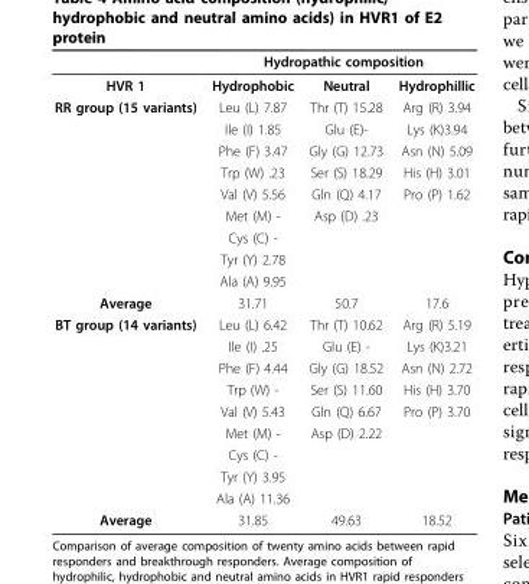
<table><thead><tr><td rowspan="2">HVR 1</td><td colspan="3">Hydropathic composition</td></tr><tr><td>Hydrophobic</td><td>Neutral</td><td>Hydrophillic</td></tr></thead><tbody><tr><td rowspan="9">RR group (15 variants)</td><td>Leu (L) 7.87</td><td>Thr (T) 15.28</td><td>Arg (R) 3.94</td></tr><tr><td>Ile (I) 1.85</td><td>Glu (E)-</td><td>Lys (K)3.94</td></tr><tr><td>Phe (F) 3.47</td><td>Gly (G) 12.73</td><td>Asn (N) 5.09</td></tr><tr><td>Trp (W) .23</td><td>Ser (S) 18.29</td><td>His (H) 3.01</td></tr><tr><td>Val (V) 5.56</td><td>Gln (Q) 4.17</td><td>Pro (P) 1.62</td></tr><tr><td>Met (M) -</td><td>Asp (D) .23</td><td></td></tr><tr><td>Cys (C) -</td><td></td><td></td></tr><tr><td>Tyr (Y) 2.78</td><td></td><td></td></tr><tr><td>Ala (A) 9.95</td><td></td><td></td></tr><tr><td>Average</td><td>31.71</td><td>50.7</td><td>17.6</td></tr><tr><td rowspan="9">BT group (14 variants)</td><td>Leu (L) 6.42</td><td>Thr (T) 10.62</td><td>Arg (R) 5.19</td></tr><tr><td>Ile (I) .25</td><td>Glu (E) -</td><td>Lys (K)3.21</td></tr><tr><td>Phe (F) 4.44</td><td>Gly (G) 18.52</td><td>Asn (N) 2.72</td></tr><tr><td>Trp (W) -</td><td>Ser (S) 11.60</td><td>His (H) 3.70</td></tr><tr><td>Val (V) 5.43</td><td>Gln (Q) 6.67</td><td>Pro (P) 3.70</td></tr><tr><td>Met (M) -</td><td>Asp (D) 2.22</td><td></td></tr><tr><td>Cys (C) -</td><td></td><td></td></tr><tr><td>Tyr (Y) 3.95</td><td></td><td></td></tr><tr><td>Ala (A) 11.36</td><td></td><td></td></tr><tr><td>Average</td><td>31.85</td><td>49.63</td><td>18.52</td></tr></tbody></table>